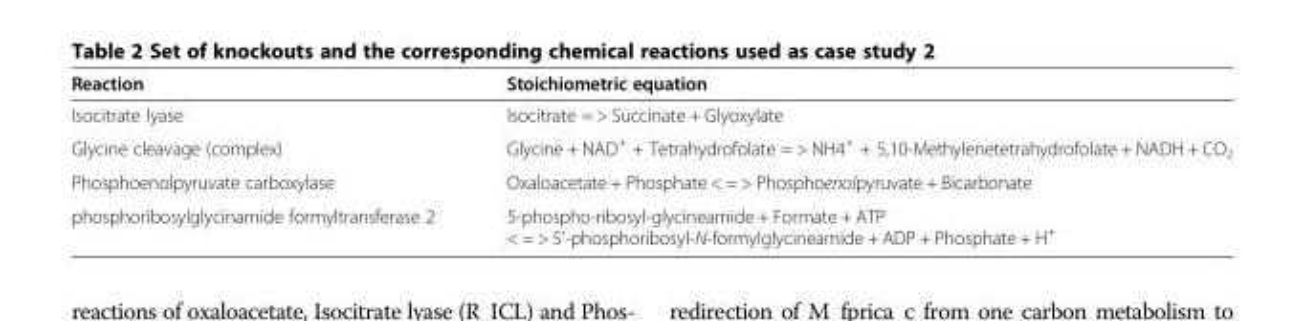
<table><thead><tr><td>Reaction</td><td>Stoichiometric equation</td></tr></thead><tbody><tr><td>Isocitrate lyase</td><td>Isocitrate = &gt; Succinate + Glyoxylate</td></tr><tr><td>Glycine cleavage (complex)</td><td>Glycine + NAD<sup>+</sup> + Tetrahydrofolate = &gt; NH4<sup>+</sup> + 5,10-Methylenetetrahydrofolate + NADH + CO<sub>2</sub></td></tr><tr><td>Phosphoenolpyruvate carboxylase</td><td>Oxaloacetate + Phosphate &lt; = &gt; Phosphoenolpyruvate + Bicarbonate</td></tr><tr><td>phosphoribosylglycinamide formyltransferase 2</td><td>5-phospho-ribosyl-glycineamide + Formate + ATP &lt; = &gt; 5&#x27;-phosphoribosyl-N-formylglycineamide + ADP + Phosphate + H<sup>+</sup></td></tr></tbody></table>